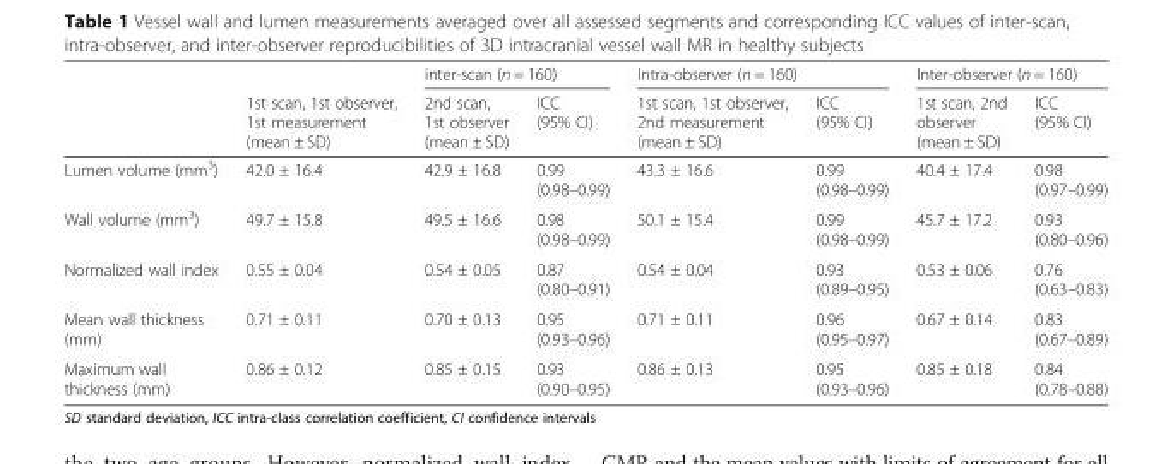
<table><thead><tr><td rowspan="2"></td><td rowspan="2">1st scan, 1st observer, 1st measurement (mean ± SD)</td><td colspan="2">inter-scan (n = 160)</td><td colspan="2">Intra-observer (n = 160)</td><td colspan="2">Inter-observer (n = 160)</td></tr><tr><td>2nd scan, 1st observer (mean ± SD)</td><td>ICC (95% CI)</td><td>1st scan, 1st observer, 2nd measurement (mean ± SD)</td><td>ICC (95% CI)</td><td>1st scan, 2nd observer (mean ± SD)</td><td>ICC (95% CI)</td></tr></thead><tbody><tr><td>Lumen volume (mm<sup>3</sup>)</td><td>42.0 ± 16.4</td><td>42.9 ± 16.8</td><td>0.99 (0.98–0.99)</td><td>43.3 ± 16.6</td><td>0.99 (0.98–0.99)</td><td>40.4 ± 17.4</td><td>0.98 (0.97–0.99)</td></tr><tr><td>Wall volume (mm<sup>3</sup>)</td><td>49.7 ± 15.8</td><td>49.5 ± 16.6</td><td>0.98 (0.98–0.99)</td><td>50.1 ± 15.4</td><td>0.99 (0.98–0.99)</td><td>45.7 ± 17.2</td><td>0.93 (0.80–0.96)</td></tr><tr><td>Normalized wall index</td><td>0.55 ± 0.04</td><td>0.54 ± 0.05</td><td>0.87 (0.80–0.91)</td><td>0.54 ± 0.04</td><td>0.93 (0.89–0.95)</td><td>0.53 ± 0.06</td><td>0.76 (0.63–0.83)</td></tr><tr><td>Mean wall thickness (mm)</td><td>0.71 ± 0.11</td><td>0.70 ± 0.13</td><td>0.95 (0.93–0.96)</td><td>0.71 ± 0.11</td><td>0.96 (0.95–0.97)</td><td>0.67 ± 0.14</td><td>0.83 (0.67–0.89)</td></tr><tr><td>Maximum wall thickness (mm)</td><td>0.86 ± 0.12</td><td>0.85 ± 0.15</td><td>0.93 (0.90–0.95)</td><td>0.86 ± 0.13</td><td>0.95 (0.93–0.96)</td><td>0.85 ± 0.18</td><td>0.84 (0.78–0.88)</td></tr></tbody></table>